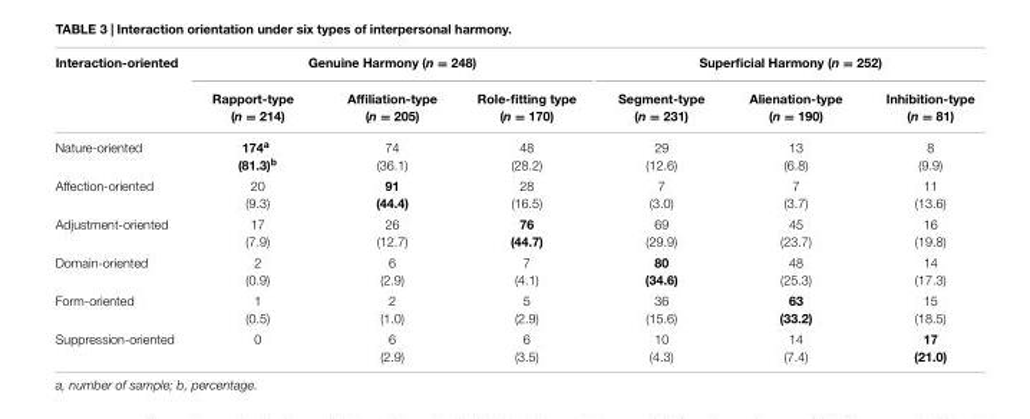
<table><thead><tr><td rowspan="2">Interaction-oriented</td><td colspan="3">Genuine Harmony (n = 248)</td><td colspan="3">Superficial Harmony (n = 252)</td></tr><tr><td>Rapport-type (n = 214)</td><td>Affiliation-type (n = 205)</td><td>Role-fitting type (n = 170)</td><td>Segment-type (n = 231)</td><td>Alienation-type (n = 190)</td><td>Inhibition-type (n = 81)</td></tr></thead><tbody><tr><td>Nature-oriented</td><td>174<sup>a</sup> (81.3)<sup>b</sup></td><td>74 (36.1)</td><td>48 (28.2)</td><td>29 (12.6)</td><td>13 (6.8)</td><td>8 (9.9)</td></tr><tr><td>Affection-oriented</td><td>20 (9.3)</td><td>91 (44.4)</td><td>28 (16.5)</td><td>7 (3.0)</td><td>7 (3.7)</td><td>11 (13.6)</td></tr><tr><td>Adjustment-oriented</td><td>17 (7.9)</td><td>26 (12.7)</td><td>76 (44.7)</td><td>69 (29.9)</td><td>45 (23.7)</td><td>16 (19.8)</td></tr><tr><td>Domain-oriented</td><td>2 (0.9)</td><td>6 (2.9)</td><td>7 (4.1)</td><td>80 (34.6)</td><td>48 (25.3)</td><td>14 (17.3)</td></tr><tr><td>Form-oriented</td><td>1 (0.5)</td><td>2 (1.0)</td><td>5 (2.9)</td><td>36 (15.6)</td><td>63 (33.2)</td><td>15 (18.5)</td></tr><tr><td>Suppression-oriented</td><td>0</td><td>6 (2.9)</td><td>6 (3.5)</td><td>10 (4.3)</td><td>14 (7.4)</td><td>17 (21.0)</td></tr></tbody></table>